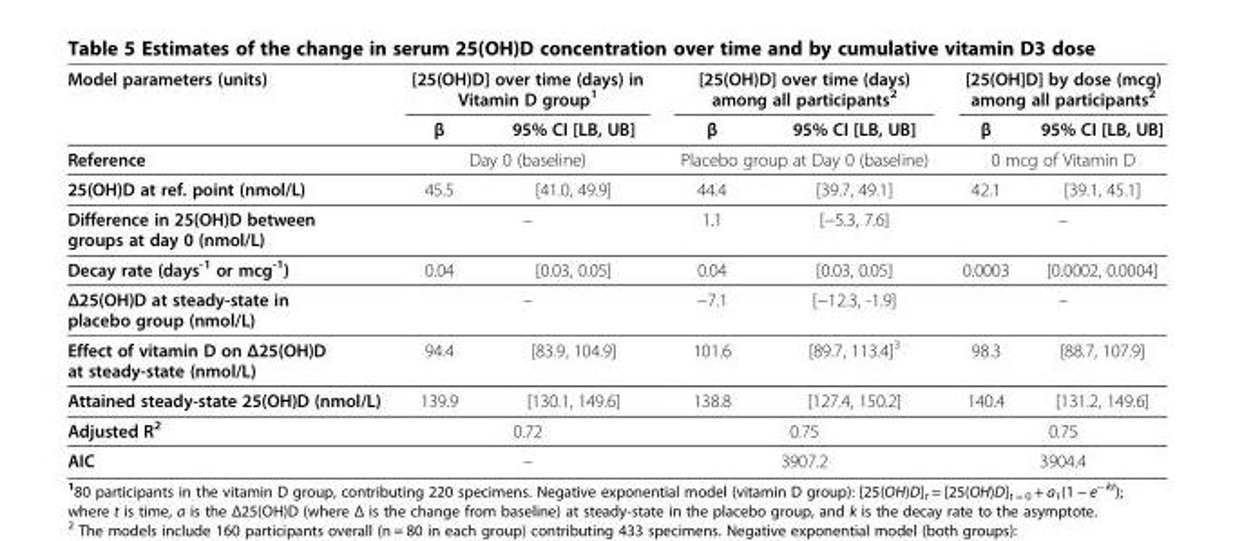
<table><thead><tr><td rowspan="2">Model parameters (units)</td><td colspan="2">[25(OH)D] over time (days) in Vitamin D group<sup>1</sup></td><td colspan="2">[25(OH)D] over time (days) among all participants<sup>2</sup></td><td colspan="2">[25(OH]D] by dose (mcg) among all participants<sup>2</sup></td></tr><tr><td>β</td><td>95% CI [LB, UB]</td><td>β</td><td>95% CI [LB, UB]</td><td>β</td><td>95% CI [LB, UB]</td></tr></thead><tbody><tr><td>Reference</td><td colspan="2">Day 0 (baseline)</td><td colspan="2">Placebo group at Day 0 (baseline)</td><td colspan="2">0 mcg of Vitamin D</td></tr><tr><td>25(OH)D at ref. point (nmol/L)</td><td>45.5</td><td>[41.0, 49.9]</td><td>44.4</td><td>[39.7, 49.1]</td><td>42.1</td><td>[39.1, 45.1]</td></tr><tr><td>Difference in 25(OH)D between groups at day 0 (nmol/L)</td><td colspan="2">–</td><td>1.1</td><td>[−5.3, 7.6]</td><td colspan="2">–</td></tr><tr><td>Decay rate (days<sup>-1</sup> or mcg<sup>-1</sup>)</td><td>0.04</td><td>[0.03, 0.05]</td><td>0.04</td><td>[0.03, 0.05]</td><td>0.0003</td><td>[0.0002, 0.0004]</td></tr><tr><td>Δ25(OH)D at steady-state in placebo group (nmol/L)</td><td colspan="2">–</td><td>−7.1</td><td>[−12.3, -1.9]</td><td colspan="2">–</td></tr><tr><td>Effect of vitamin D on Δ25(OH)D at steady-state (nmol/L)</td><td>94.4</td><td>[83.9, 104.9]</td><td>101.6</td><td>[89.7, 113.4]<sup>3</sup></td><td>98.3</td><td>[88.7, 107.9]</td></tr><tr><td>Attained steady-state 25(OH)D (nmol/L)</td><td>139.9</td><td>[130.1, 149.6]</td><td>138.8</td><td>[127.4, 150.2]</td><td>140.4</td><td>[131.2, 149.6]</td></tr><tr><td>Adjusted R<sup>2</sup></td><td colspan="2">0.72</td><td colspan="2">0.75</td><td colspan="2">0.75</td></tr><tr><td>AIC</td><td colspan="2">–</td><td colspan="2">3907.2</td><td colspan="2">3904.4</td></tr></tbody></table>